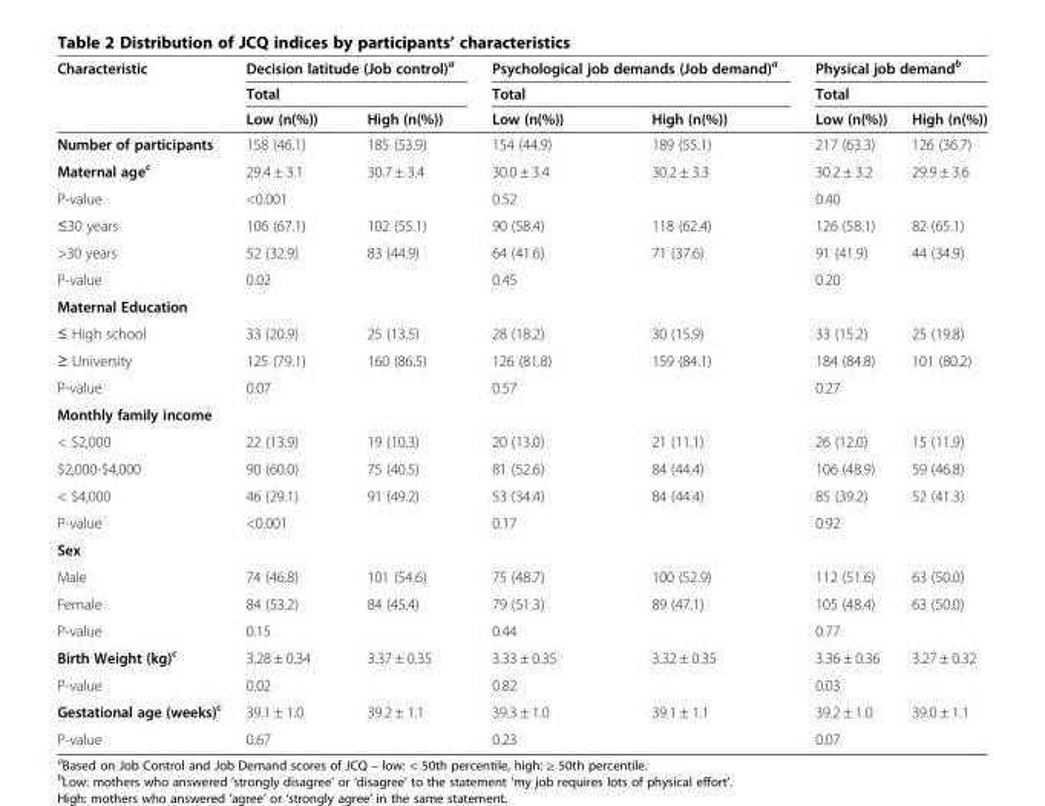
<table><thead><tr><td rowspan="3">Characteristic</td><td rowspan="2" colspan="2">Decision latitude (Job control)<sup>a</sup> Total</td><td rowspan="2" colspan="2">Psychological job demands (Job demand)<sup>a</sup> Total</td><td rowspan="2" colspan="2">Physical job demand<sup>b</sup> Total</td></tr><tr></tr><tr><td>Low (n(%))</td><td>High (n(%))</td><td>Low (n(%))</td><td>High (n(%))</td><td>Low (n(%))</td><td>High (n(%))</td></tr></thead><tbody><tr><td>Number of participants</td><td>158 (46.1)</td><td>185 (53.9)</td><td>154 (44.9)</td><td>189 (55.1)</td><td>217 (63.3)</td><td>126 (36.7)</td></tr><tr><td>Maternal age<sup>c</sup></td><td>29.4 ± 3.1</td><td>30.7 ± 3.4</td><td>30.0 ± 3.4</td><td>30.2 ± 3.3</td><td>30.2 ± 3.2</td><td>29.9 ± 3.6</td></tr><tr><td>P-value</td><td>&lt;0.001</td><td></td><td>0.52</td><td></td><td>0.40</td><td></td></tr><tr><td>≤30 years</td><td>106 (67.1)</td><td>102 (55.1)</td><td>90 (58.4)</td><td>118 (62.4)</td><td>126 (58.1)</td><td>82 (65.1)</td></tr><tr><td>&gt;30 years</td><td>52 (32.9)</td><td>83 (44.9)</td><td>64 (41.6)</td><td>71 (37.6)</td><td>91 (41.9)</td><td>44 (34.9)</td></tr><tr><td>P-value</td><td>0.02</td><td></td><td>0.45</td><td></td><td>0.20</td><td></td></tr><tr><td colspan="7">Maternal Education</td></tr><tr><td>≤ High school</td><td>33 (20.9)</td><td>25 (13.5)</td><td>28 (18.2)</td><td>30 (15.9)</td><td>33 (15.2)</td><td>25 (19.8)</td></tr><tr><td>≥ University</td><td>125 (79.1)</td><td>160 (86.5)</td><td>126 (81.8)</td><td>159 (84.1)</td><td>184 (84.8)</td><td>101 (80.2)</td></tr><tr><td>P-value</td><td>0.07</td><td></td><td>0.57</td><td></td><td>0.27</td><td></td></tr><tr><td colspan="7">Monthly family income</td></tr><tr><td>&lt; $2,000</td><td>22 (13.9)</td><td>19 (10.3)</td><td>20 (13.0)</td><td>21 (11.1)</td><td>26 (12.0)</td><td>15 (11.9)</td></tr><tr><td>$2,000-$4,000</td><td>90 (60.0)</td><td>75 (40.5)</td><td>81 (52.6)</td><td>84 (44.4)</td><td>106 (48.9)</td><td>59 (46.8)</td></tr><tr><td>&lt; $4,000</td><td>46 (29.1)</td><td>91 (49.2)</td><td>53 (34.4)</td><td>84 (44.4)</td><td>85 (39.2)</td><td>52 (41.3)</td></tr><tr><td>P-value</td><td>&lt;0.001</td><td></td><td>0.17</td><td></td><td>0.92</td><td></td></tr><tr><td colspan="7">Sex</td></tr><tr><td>Male</td><td>74 (46.8)</td><td>101 (54.6)</td><td>75 (48.7)</td><td>100 (52.9)</td><td>112 (51.6)</td><td>63 (50.0)</td></tr><tr><td>Female</td><td>84 (53.2)</td><td>84 (45.4)</td><td>79 (51.3)</td><td>89 (47.1)</td><td>105 (48.4)</td><td>63 (50.0)</td></tr><tr><td>P-value</td><td>0.15</td><td></td><td>0.44</td><td></td><td>0.77</td><td></td></tr><tr><td>Birth Weight (kg)<sup>c</sup></td><td>3.28 ± 0.34</td><td>3.37 ± 0.35</td><td>3.33 ± 0.35</td><td>3.32 ± 0.35</td><td>3.36 ± 0.36</td><td>3.27 ± 0.32</td></tr><tr><td>P-value</td><td>0.02</td><td></td><td>0.82</td><td></td><td>0.03</td><td></td></tr><tr><td>Gestational age (weeks)<sup>c</sup></td><td>39.1 ± 1.0</td><td>39.2 ± 1.1</td><td>39.3 ± 1.0</td><td>39.1 ± 1.1</td><td>39.2 ± 1.0</td><td>39.0 ± 1.1</td></tr><tr><td>P-value</td><td>0.67</td><td></td><td>0.23</td><td></td><td>0.07</td><td></td></tr></tbody></table>